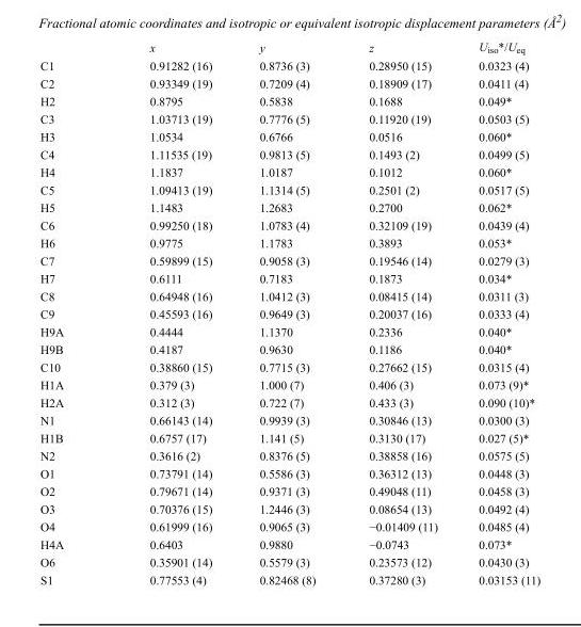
<table><thead><tr><td></td><td>x</td><td>y</td><td>z</td><td>U<sub>iso</sub>*/U<sub>eq</sub></td></tr></thead><tbody><tr><td>C1</td><td>0.91282 (16)</td><td>0.8736 (3)</td><td>0.28950 (15)</td><td>0.0323 (4)</td></tr><tr><td>C2</td><td>0.93349 (19)</td><td>0.7209 (4)</td><td>0.18909 (17)</td><td>0.0411 (4)</td></tr><tr><td>H2</td><td>0.8795</td><td>0.5838</td><td>0.1688</td><td>0.049*</td></tr><tr><td>C3</td><td>1.03713 (19)</td><td>0.7776 (5)</td><td>0.11920 (19)</td><td>0.0503 (5)</td></tr><tr><td>H3</td><td>1.0534</td><td>0.6766</td><td>0.0516</td><td>0.060*</td></tr><tr><td>C4</td><td>1.11535 (19)</td><td>0.9813 (5)</td><td>0.1493 (2)</td><td>0.0499 (5)</td></tr><tr><td>H4</td><td>1.1837</td><td>1.0187</td><td>0.1012</td><td>0.060*</td></tr><tr><td>C5</td><td>1.09413 (19)</td><td>1.1314 (5)</td><td>0.2501 (2)</td><td>0.0517 (5)</td></tr><tr><td>H5</td><td>1.1483</td><td>1.2683</td><td>0.2700</td><td>0.062*</td></tr><tr><td>C6</td><td>0.99250 (18)</td><td>1.0783 (4)</td><td>0.32109 (19)</td><td>0.0439 (4)</td></tr><tr><td>H6</td><td>0.9775</td><td>1.1783</td><td>0.3893</td><td>0.053*</td></tr><tr><td>C7</td><td>0.59899 (15)</td><td>0.9058 (3)</td><td>0.19546 (14)</td><td>0.0279 (3)</td></tr><tr><td>H7</td><td>0.6111</td><td>0.7183</td><td>0.1873</td><td>0.034*</td></tr><tr><td>C8</td><td>0.64948 (16)</td><td>1.0412 (3)</td><td>0.08415 (14)</td><td>0.0311 (3)</td></tr><tr><td>C9</td><td>0.45593 (16)</td><td>0.9649 (3)</td><td>0.20037 (16)</td><td>0.0333 (4)</td></tr><tr><td>H9A</td><td>0.4444</td><td>1.1370</td><td>0.2336</td><td>0.040*</td></tr><tr><td>H9B</td><td>0.4187</td><td>0.9630</td><td>0.1186</td><td>0.040*</td></tr><tr><td>C10</td><td>0.38860 (15)</td><td>0.7715 (3)</td><td>0.27662 (15)</td><td>0.0315 (4)</td></tr><tr><td>H1A</td><td>0.379 (3)</td><td>1.000 (7)</td><td>0.406 (3)</td><td>0.073 (9)*</td></tr><tr><td>H2A</td><td>0.312 (3)</td><td>0.722 (7)</td><td>0.433 (3)</td><td>0.090 (10)*</td></tr><tr><td>N1</td><td>0.66143 (14)</td><td>0.9939 (3)</td><td>0.30846 (13)</td><td>0.0300 (3)</td></tr><tr><td>H1B</td><td>0.6757 (17)</td><td>1.141 (5)</td><td>0.3130 (17)</td><td>0.027 (5)*</td></tr><tr><td>N2</td><td>0.3616 (2)</td><td>0.8376 (5)</td><td>0.38858 (16)</td><td>0.0575 (5)</td></tr><tr><td>O1</td><td>0.73791 (14)</td><td>0.5586 (3)</td><td>0.36312 (13)</td><td>0.0448 (3)</td></tr><tr><td>O2</td><td>0.79671 (14)</td><td>0.9371 (3)</td><td>0.49048 (11)</td><td>0.0458 (3)</td></tr><tr><td>O3</td><td>0.70376 (15)</td><td>1.2446 (3)</td><td>0.08654 (13)</td><td>0.0492 (4)</td></tr><tr><td>O4</td><td>0.61999 (16)</td><td>0.9065 (3)</td><td>−0.01409 (11)</td><td>0.0485 (4)</td></tr><tr><td>H4A</td><td>0.6403</td><td>0.9880</td><td>−0.0743</td><td>0.073*</td></tr><tr><td>O6</td><td>0.35901 (14)</td><td>0.5579 (3)</td><td>0.23573 (12)</td><td>0.0430 (3)</td></tr><tr><td>S1</td><td>0.77553 (4)</td><td>0.82468 (8)</td><td>0.37280 (3)</td><td>0.03153 (11)</td></tr></tbody></table>